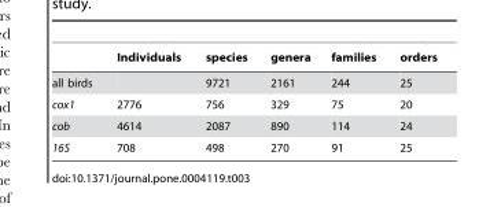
<table><thead><tr><td></td><td>Individuals</td><td>species</td><td>genera</td><td>families</td><td>orders</td></tr></thead><tbody><tr><td>all birds</td><td></td><td>9721</td><td>2161</td><td>244</td><td>25</td></tr><tr><td>cox1</td><td>2776</td><td>756</td><td>329</td><td>75</td><td>20</td></tr><tr><td>cob</td><td>4614</td><td>2087</td><td>890</td><td>114</td><td>24</td></tr><tr><td>16S</td><td>708</td><td>498</td><td>270</td><td>91</td><td>25</td></tr></tbody></table>